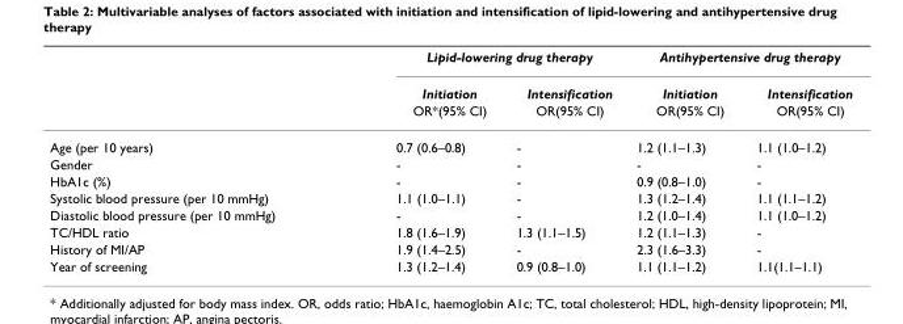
<table><thead><tr><td rowspan="3"></td><td colspan="2">Lipid-lowering drug therapy</td><td colspan="2">Antihypertensive drug therapy</td></tr><tr><td rowspan="2">Initiation OR*(95% CI)</td><td rowspan="2">Intensification OR(95% CI)</td><td rowspan="2">Initiation OR(95% CI)</td><td rowspan="2">Intensification OR(95% CI)</td></tr><tr></tr></thead><tbody><tr><td>Age (per 10 years)</td><td>0.7 (0.6–0.8)</td><td>-</td><td>1.2 (1.1–1.3)</td><td>1.1 (1.0–1.2)</td></tr><tr><td>Gender</td><td>-</td><td>-</td><td>-</td><td>-</td></tr><tr><td>HbA1c (%)</td><td>-</td><td>-</td><td>0.9 (0.8–1.0)</td><td>-</td></tr><tr><td>Systolic blood pressure (per 10 mmHg)</td><td>1.1 (1.0–1.1)</td><td>-</td><td>1.3 (1.2–1.4)</td><td>1.1 (1.1–1.2)</td></tr><tr><td>Diastolic blood pressure (per 10 mmHg)</td><td>-</td><td>-</td><td>1.2 (1.0–1.4)</td><td>1.1 (1.0–1.2)</td></tr><tr><td>TC/HDL ratio</td><td>1.8 (1.6–1.9)</td><td>1.3 (1.1–1.5)</td><td>1.2 (1.1–1.3)</td><td>-</td></tr><tr><td>History of MI/AP</td><td>1.9 (1.4–2.5)</td><td>-</td><td>2.3 (1.6–3.3)</td><td>-</td></tr><tr><td>Year of screening</td><td>1.3 (1.2–1.4)</td><td>0.9 (0.8–1.0)</td><td>1.1 (1.1–1.2)</td><td>1.1(1.1–1.1)</td></tr></tbody></table>